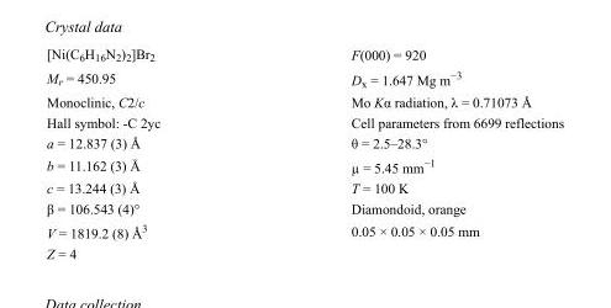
<table><tbody><tr><td>[Ni(C<sub>6</sub>H<sub>16</sub>N<sub>2</sub>)<sub>2</sub>]Br<sub>2</sub></td><td>F(000) = 920</td></tr><tr><td>M<sub>r</sub> = 450.95</td><td>D<sub>x</sub> = 1.647 Mg m<sup>−3</sup></td></tr><tr><td>Monoclinic, C2/c</td><td>Mo Kα radiation, λ = 0.71073 Å</td></tr><tr><td>Hall symbol: -C 2yc</td><td>Cell parameters from 6699 reflections</td></tr><tr><td>a = 12.837 (3) Å</td><td>θ = 2.5–28.3°</td></tr><tr><td>b = 11.162 (3) Å</td><td>µ = 5.45 mm<sup>−1</sup></td></tr><tr><td>c = 13.244 (3) Å</td><td>T = 100 K</td></tr><tr><td>β = 106.543 (4)°</td><td>Diamondoid, orange</td></tr><tr><td>V = 1819.2 (8) Å<sup>3</sup></td><td>0.05 × 0.05 × 0.05 mm</td></tr><tr><td>Z = 4</td><td></td></tr></tbody></table>